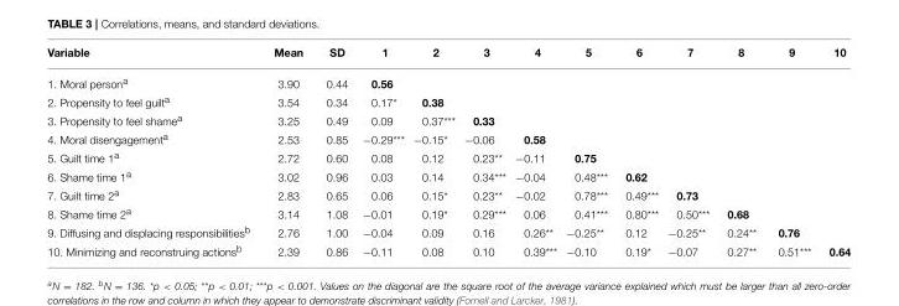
<table><thead><tr><td>Variable</td><td>Mean</td><td>SD</td><td>1</td><td>2</td><td>3</td><td>4</td><td>5</td><td>6</td><td>7</td><td>8</td><td>9</td><td>10</td></tr></thead><tbody><tr><td>1. Moral person<sup>a</sup></td><td>3.90</td><td>0.44</td><td>0.56</td><td></td><td></td><td></td><td></td><td></td><td></td><td></td><td></td><td></td></tr><tr><td>2. Propensity to feel guilt<sup>a</sup></td><td>3.54</td><td>0.34</td><td>0.17*</td><td>0.38</td><td></td><td></td><td></td><td></td><td></td><td></td><td></td><td></td></tr><tr><td>3. Propensity to feel shame<sup>a</sup></td><td>3.25</td><td>0.49</td><td>0.09</td><td>0.37***</td><td>0.33</td><td></td><td></td><td></td><td></td><td></td><td></td><td></td></tr><tr><td>4. Moral disengagement<sup>a</sup></td><td>2.53</td><td>0.85</td><td>−0.29***</td><td>−0.15*</td><td>−0.06</td><td>0.58</td><td></td><td></td><td></td><td></td><td></td><td></td></tr><tr><td>5. Guilt time 1<sup>a</sup></td><td>2.72</td><td>0.60</td><td>0.08</td><td>0.12</td><td>0.23**</td><td>−0.11</td><td>0.75</td><td></td><td></td><td></td><td></td><td></td></tr><tr><td>6. Shame time 1<sup>a</sup></td><td>3.02</td><td>0.96</td><td>0.03</td><td>0.14</td><td>0.34***</td><td>−0.04</td><td>0.48***</td><td>0.62</td><td></td><td></td><td></td><td></td></tr><tr><td>7. Guilt time 2<sup>a</sup></td><td>2.83</td><td>0.65</td><td>0.06</td><td>0.15*</td><td>0.23**</td><td>−0.02</td><td>0.78***</td><td>0.49***</td><td>0.73</td><td></td><td></td><td></td></tr><tr><td>8. Shame time 2<sup>a</sup></td><td>3.14</td><td>1.08</td><td>−0.01</td><td>0.19*</td><td>0.29***</td><td>0.06</td><td>0.41***</td><td>0.80***</td><td>0.50***</td><td>0.68</td><td></td><td></td></tr><tr><td>9. Diffusing and displacing responsibilities<sup>b</sup></td><td>2.76</td><td>1.00</td><td>−0.04</td><td>0.09</td><td>0.16</td><td>0.26**</td><td>−0.25**</td><td>0.12</td><td>−0.25**</td><td>0.24**</td><td>0.76</td><td></td></tr><tr><td>10. Minimizing and reconstruing actions<sup>b</sup></td><td>2.39</td><td>0.86</td><td>−0.11</td><td>0.08</td><td>0.10</td><td>0.39***</td><td>−0.10</td><td>0.19*</td><td>−0.07</td><td>0.27**</td><td>0.51***</td><td>0.64</td></tr></tbody></table>